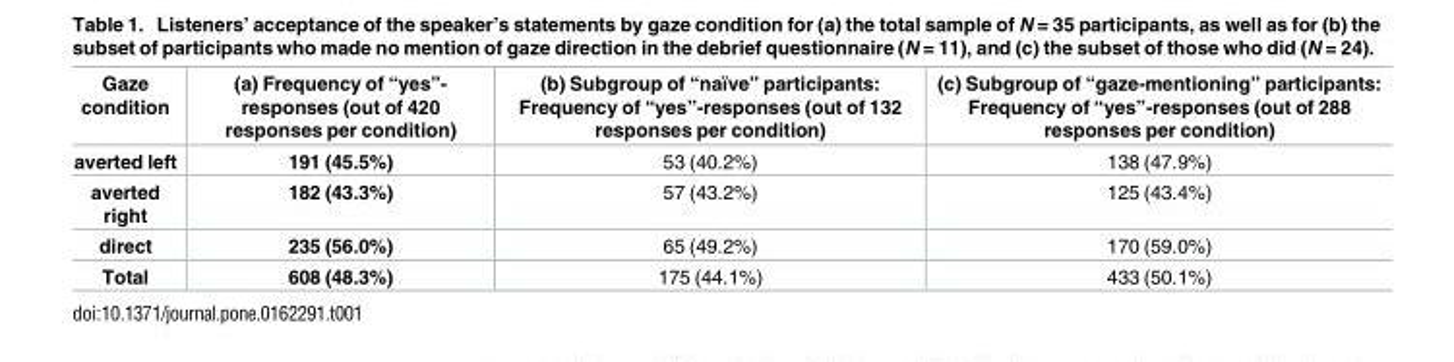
<table><thead><tr><td>Gaze condition</td><td>(a) Frequency of “yes”- responses (out of 420 responses per condition)</td><td>(b) Subgroup of “naïve” participants: Frequency of “yes”-responses (out of 132 responses per condition)</td><td>(c) Subgroup of “gaze-mentioning” participants: Frequency of “yes”-responses (out of 288 responses per condition)</td></tr></thead><tbody><tr><td>averted left</td><td>191 (45.5%)</td><td>53 (40.2%)</td><td>138 (47.9%)</td></tr><tr><td>averted right</td><td>182 (43.3%)</td><td>57 (43.2%)</td><td>125 (43.4%)</td></tr><tr><td>direct</td><td>235 (56.0%)</td><td>65 (49.2%)</td><td>170 (59.0%)</td></tr><tr><td>Total</td><td>608 (48.3%)</td><td>175 (44.1%)</td><td>433 (50.1%)</td></tr></tbody></table>